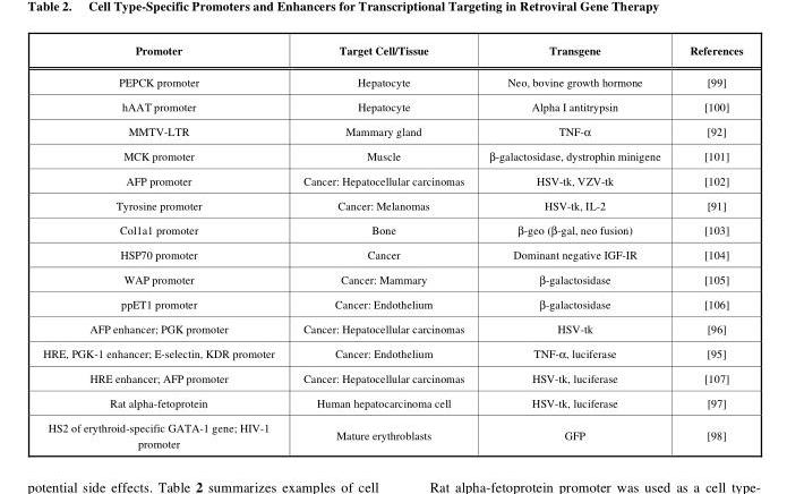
<table><thead><tr><td>Promoter</td><td>Target Cell/Tissue</td><td>Transgene</td><td>References</td></tr></thead><tbody><tr><td>PEPCK promoter</td><td>Hepatocyte</td><td>Neo, bovine growth hormone</td><td>[99]</td></tr><tr><td>hAAT promoter</td><td>Hepatocyte</td><td>Alpha I antitrypsin</td><td>[100]</td></tr><tr><td>MMTV-LTR</td><td>Mammary gland</td><td>TNF-α</td><td>[92]</td></tr><tr><td>MCK promoter</td><td>Muscle</td><td>β-galactosidase, dystrophin minigene</td><td>[101]</td></tr><tr><td>AFP promoter</td><td>Cancer: Hepatocellular carcinomas</td><td>HSV-tk, VZV-tk</td><td>[102]</td></tr><tr><td>Tyrosine promoter</td><td>Cancer: Melanomas</td><td>HSV-tk, IL-2</td><td>[91]</td></tr><tr><td>Col1a1 promoter</td><td>Bone</td><td>β-geo (β-gal, neo fusion)</td><td>[103]</td></tr><tr><td>HSP70 promoter</td><td>Cancer</td><td>Dominant negative IGF-IR</td><td>[104]</td></tr><tr><td>WAP promoter</td><td>Cancer: Mammary</td><td>β-galactosidase</td><td>[105]</td></tr><tr><td>ppET1 promoter</td><td>Cancer: Endothelium</td><td>β-galactosidase</td><td>[106]</td></tr><tr><td>AFP enhancer; PGK promoter</td><td>Cancer: Hepatocellular carcinomas</td><td>HSV-tk</td><td>[96]</td></tr><tr><td>HRE, PGK-1 enhancer; E-selectin, KDR promoter</td><td>Cancer: Endothelium</td><td>TNF-α, luciferase</td><td>[95]</td></tr><tr><td>HRE enhancer; AFP promoter</td><td>Cancer: Hepatocellular carcinomas</td><td>HSV-tk, luciferase</td><td>[107]</td></tr><tr><td>Rat alpha-fetoprotein</td><td>Human hepatocarcinoma cell</td><td>HSV-tk, luciferase</td><td>[97]</td></tr><tr><td>HS2 of erythroid-specific GATA-1 gene; HIV-1 promoter</td><td>Mature erythroblasts</td><td>GFP</td><td>[98]</td></tr></tbody></table>